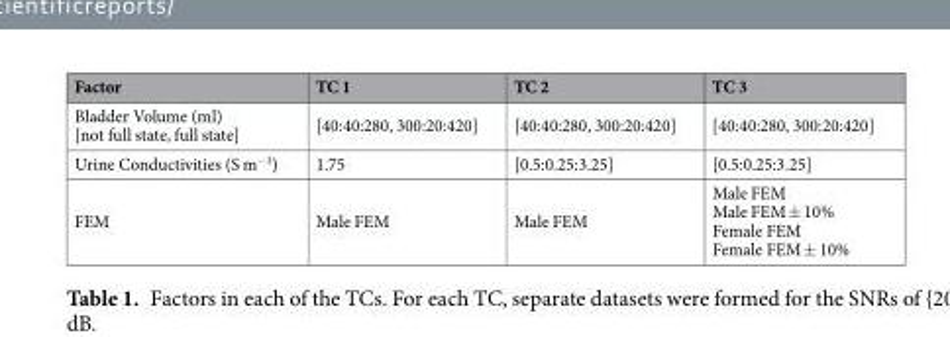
<table><thead><tr><td>Factor</td><td>TC 1</td><td>TC 2</td><td>TC 3</td></tr></thead><tbody><tr><td>Bladder Volume (ml) [not full state, full state]</td><td>[40:40:280, 300:20:420]</td><td>[40:40:280, 300:20:420]</td><td>[40:40:280, 300:20:420]</td></tr><tr><td>Urine Conductivities (S m<sup>−1</sup>)</td><td>1.75</td><td>[0.5:0.25:3.25]</td><td>[0.5:0.25:3.25]</td></tr><tr><td>FEM</td><td>Male FEM</td><td>Male FEM</td><td>Male FEM Male FEM ± 10% Female FEM Female FEM ± 10%</td></tr></tbody></table>